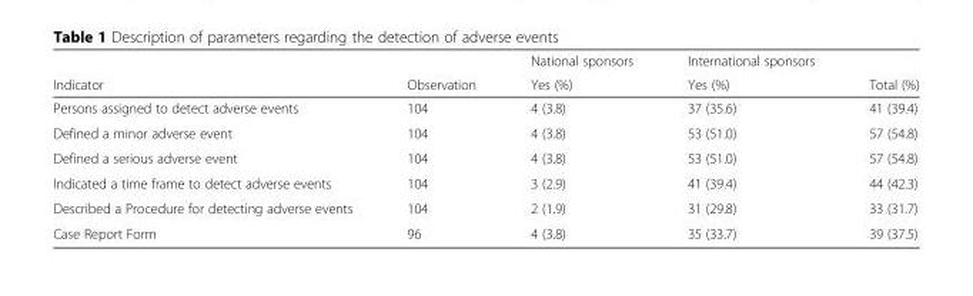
<table><thead><tr><td rowspan="2">Indicator</td><td rowspan="2">Observation</td><td rowspan="2">National sponsors Yes (%)</td><td rowspan="2">International sponsors Yes (%)</td><td rowspan="2">Total (%)</td></tr><tr></tr></thead><tbody><tr><td>Persons assigned to detect adverse events</td><td>104</td><td>4 (3.8)</td><td>37 (35.6)</td><td>41 (39.4)</td></tr><tr><td>Defined a minor adverse event</td><td>104</td><td>4 (3.8)</td><td>53 (51.0)</td><td>57 (54.8)</td></tr><tr><td>Defined a serious adverse event</td><td>104</td><td>4 (3.8)</td><td>53 (51.0)</td><td>57 (54.8)</td></tr><tr><td>Indicated a time frame to detect adverse events</td><td>104</td><td>3 (2.9)</td><td>41 (39.4)</td><td>44 (42.3)</td></tr><tr><td>Described a Procedure for detecting adverse events</td><td>104</td><td>2 (1.9)</td><td>31 (29.8)</td><td>33 (31.7)</td></tr><tr><td>Case Report Form</td><td>96</td><td>4 (3.8)</td><td>35 (33.7)</td><td>39 (37.5)</td></tr></tbody></table>